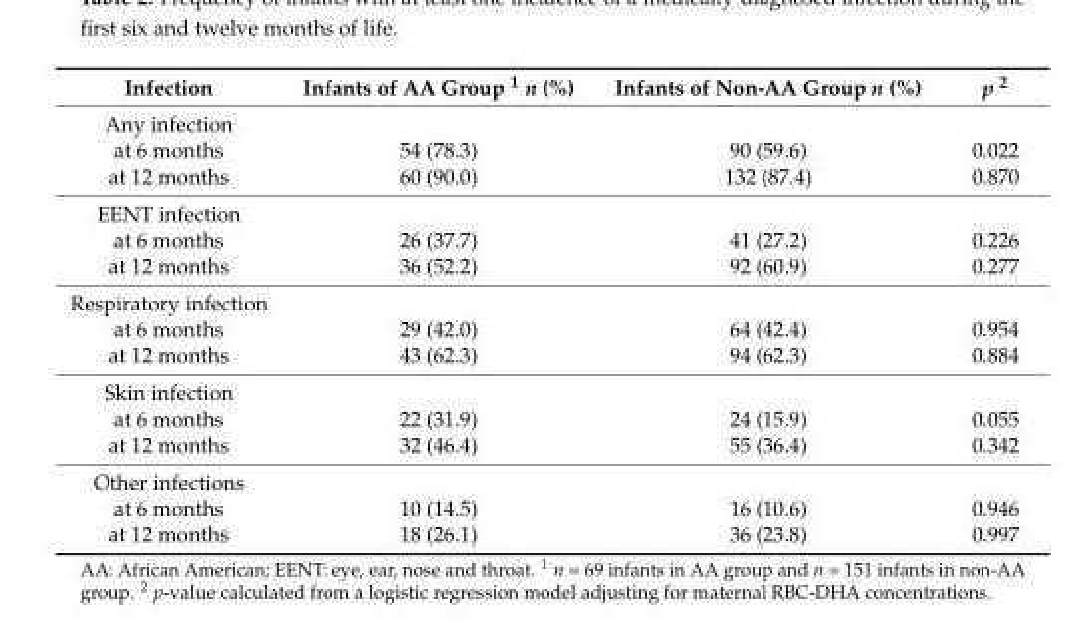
<table><thead><tr><td>Infection</td><td>Infants of AA Group <sup>1</sup> n (%)</td><td>Infants of Non-AA Group n (%)</td><td>p <sup>2</sup></td></tr></thead><tbody><tr><td colspan="4">Any infection</td></tr><tr><td>at 6 months</td><td>54 (78.3)</td><td>90 (59.6)</td><td>0.022</td></tr><tr><td>at 12 months</td><td>60 (90.0)</td><td>132 (87.4)</td><td>0.870</td></tr><tr><td colspan="4">EENT infection</td></tr><tr><td>at 6 months</td><td>26 (37.7)</td><td>41 (27.2)</td><td>0.226</td></tr><tr><td>at 12 months</td><td>36 (52.2)</td><td>92 (60.9)</td><td>0.277</td></tr><tr><td colspan="4">Respiratory infection</td></tr><tr><td>at 6 months</td><td>29 (42.0)</td><td>64 (42.4)</td><td>0.954</td></tr><tr><td>at 12 months</td><td>43 (62.3)</td><td>94 (62.3)</td><td>0.884</td></tr><tr><td colspan="4">Skin infection</td></tr><tr><td>at 6 months</td><td>22 (31.9)</td><td>24 (15.9)</td><td>0.055</td></tr><tr><td>at 12 months</td><td>32 (46.4)</td><td>55 (36.4)</td><td>0.342</td></tr><tr><td colspan="4">Other infections</td></tr><tr><td>at 6 months</td><td>10 (14.5)</td><td>16 (10.6)</td><td>0.946</td></tr><tr><td>at 12 months</td><td>18 (26.1)</td><td>36 (23.8)</td><td>0.997</td></tr></tbody></table>